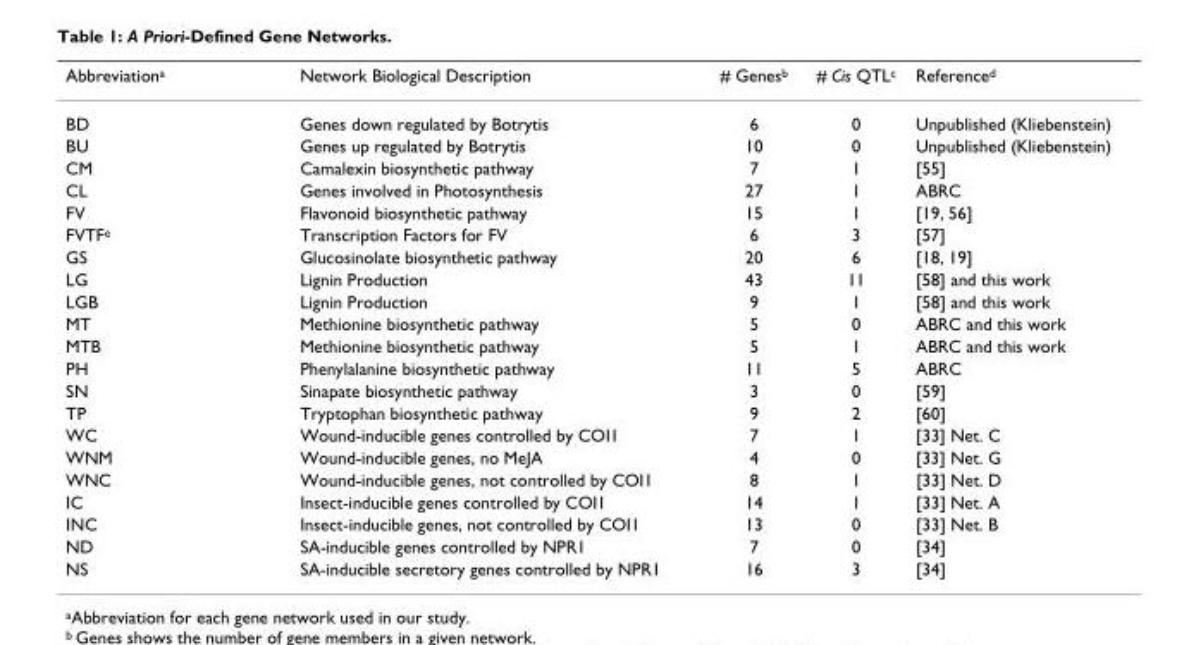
<table><thead><tr><td>Abbreviationa</td><td>Network Biological Description</td><td># Genesb</td><td># Cis QTLc</td><td>Referenced</td></tr></thead><tbody><tr><td>BD</td><td>Genes down regulated by Botrytis</td><td>6</td><td>0</td><td>Unpublished (Kliebenstein)</td></tr><tr><td>BU</td><td>Genes up regulated by Botrytis</td><td>10</td><td>0</td><td>Unpublished (Kliebenstein)</td></tr><tr><td>CM</td><td>Camalexin biosynthetic pathway</td><td>7</td><td>1</td><td>[55]</td></tr><tr><td>CL</td><td>Genes involved in Photosynthesis</td><td>27</td><td>1</td><td>ABRC</td></tr><tr><td>FV</td><td>Flavonoid biosynthetic pathway</td><td>15</td><td>1</td><td>[19, 56]</td></tr><tr><td>FVTFe</td><td>Transcription Factors for FV</td><td>6</td><td>3</td><td>[57]</td></tr><tr><td>GS</td><td>Glucosinolate biosynthetic pathway</td><td>20</td><td>6</td><td>[18, 19]</td></tr><tr><td>LG</td><td>Lignin Production</td><td>43</td><td>11</td><td>[58] and this work</td></tr><tr><td>LGB</td><td>Lignin Production</td><td>9</td><td>1</td><td>[58] and this work</td></tr><tr><td>MT</td><td>Methionine biosynthetic pathway</td><td>5</td><td>0</td><td>ABRC and this work</td></tr><tr><td>MTB</td><td>Methionine biosynthetic pathway</td><td>5</td><td>1</td><td>ABRC and this work</td></tr><tr><td>PH</td><td>Phenylalanine biosynthetic pathway</td><td>11</td><td>5</td><td>ABRC</td></tr><tr><td>SN</td><td>Sinapate biosynthetic pathway</td><td>3</td><td>0</td><td>[59]</td></tr><tr><td>TP</td><td>Tryptophan biosynthetic pathway</td><td>9</td><td>2</td><td>[60]</td></tr><tr><td>WC</td><td>Wound-inducible genes controlled by COI1</td><td>7</td><td>1</td><td>[33] Net. C</td></tr><tr><td>WNM</td><td>Wound-inducible genes, no MeJA</td><td>4</td><td>0</td><td>[33] Net. G</td></tr><tr><td>WNC</td><td>Wound-inducible genes, not controlled by COI1</td><td>8</td><td>1</td><td>[33] Net. D</td></tr><tr><td>IC</td><td>Insect-inducible genes controlled by COI1</td><td>14</td><td>1</td><td>[33] Net. A</td></tr><tr><td>INC</td><td>Insect-inducible genes, not controlled by COI1</td><td>13</td><td>0</td><td>[33] Net. B</td></tr><tr><td>ND</td><td>SA-inducible genes controlled by NPR1</td><td>7</td><td>0</td><td>[34]</td></tr><tr><td>NS</td><td>SA-inducible secretory genes controlled by NPR1</td><td>16</td><td>3</td><td>[34]</td></tr></tbody></table>